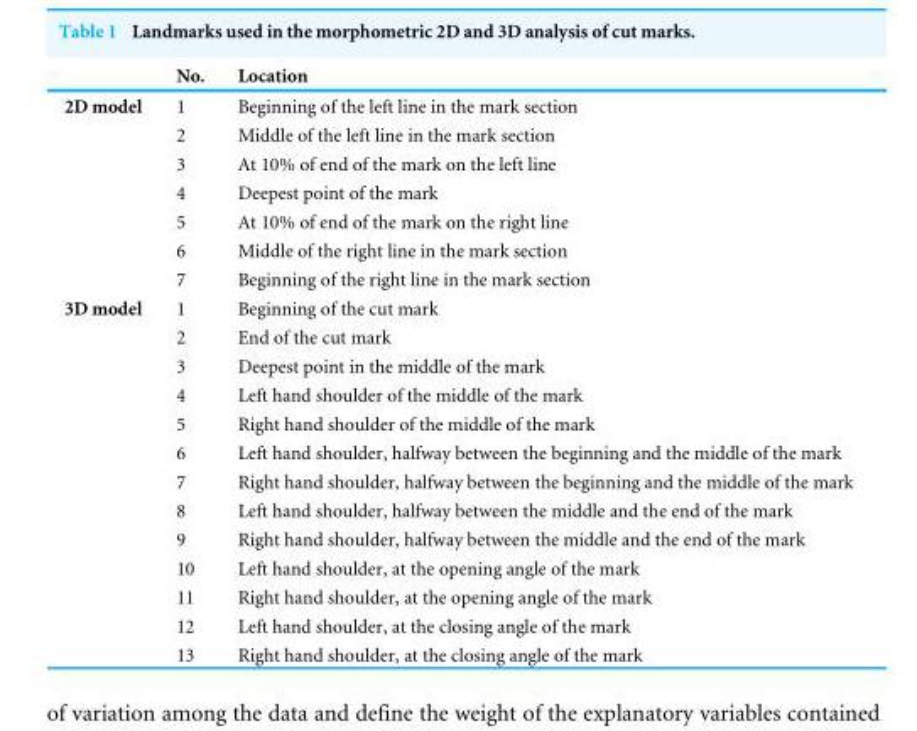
<table><thead><tr><td></td><td>No.</td><td>Location</td></tr></thead><tbody><tr><td rowspan="7">2D model</td><td>1</td><td>Beginning of the left line in the mark section</td></tr><tr><td>2</td><td>Middle of the left line in the mark section</td></tr><tr><td>3</td><td>At 10% of end of the mark on the left line</td></tr><tr><td>4</td><td>Deepest point of the mark</td></tr><tr><td>5</td><td>At 10% of end of the mark on the right line</td></tr><tr><td>6</td><td>Middle of the right line in the mark section</td></tr><tr><td>7</td><td>Beginning of the right line in the mark section</td></tr><tr><td rowspan="13">3D model</td><td>1</td><td>Beginning of the cut mark</td></tr><tr><td>2</td><td>End of the cut mark</td></tr><tr><td>3</td><td>Deepest point in the middle of the mark</td></tr><tr><td>4</td><td>Left hand shoulder of the middle of the mark</td></tr><tr><td>5</td><td>Right hand shoulder of the middle of the mark</td></tr><tr><td>6</td><td>Left hand shoulder, halfway between the beginning and the middle of the mark</td></tr><tr><td>7</td><td>Right hand shoulder, halfway between the beginning and the middle of the mark</td></tr><tr><td>8</td><td>Left hand shoulder, halfway between the middle and the end of the mark</td></tr><tr><td>9</td><td>Right hand shoulder, halfway between the middle and the end of the mark</td></tr><tr><td>10</td><td>Left hand shoulder, at the opening angle of the mark</td></tr><tr><td>11</td><td>Right hand shoulder, at the opening angle of the mark</td></tr><tr><td>12</td><td>Left hand shoulder, at the closing angle of the mark</td></tr><tr><td>13</td><td>Right hand shoulder, at the closing angle of the mark</td></tr></tbody></table>